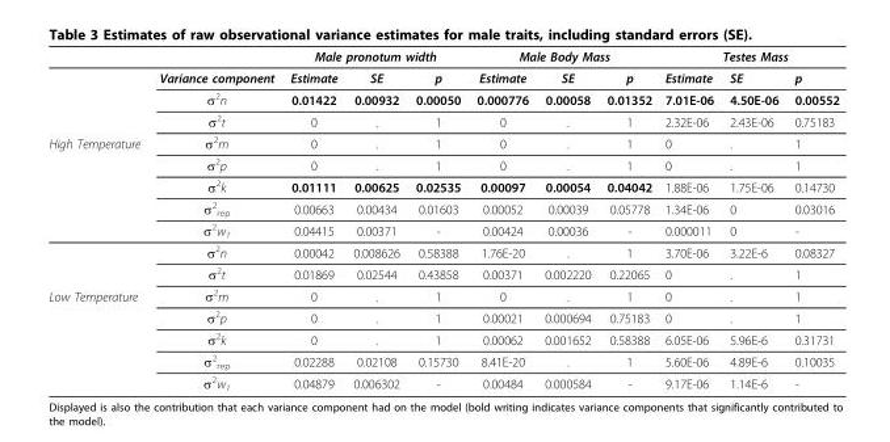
<table><thead><tr><td rowspan="2"></td><td rowspan="2">Variance component</td><td colspan="3">Male pronotum width</td><td colspan="3">Male Body Mass</td><td colspan="3">Testes Mass</td></tr><tr><td>Estimate</td><td>SE</td><td>p</td><td>Estimate</td><td>SE</td><td>p</td><td>Estimate</td><td>SE</td><td>p</td></tr></thead><tbody><tr><td></td><td>σ<sup>2</sup>n</td><td>0.01422</td><td>0.00932</td><td>0.00050</td><td>0.000776</td><td>0.00058</td><td>0.01352</td><td>7.01E-06</td><td>4.50E-06</td><td>0.00552</td></tr><tr><td></td><td>σ<sup>2</sup>t</td><td>0</td><td>.</td><td>1</td><td>0</td><td>.</td><td>1</td><td>2.32E-06</td><td>2.43E-06</td><td>0.75183</td></tr><tr><td rowspan="7">High Temperature</td><td>σ<sup>2</sup>m</td><td>0</td><td>.</td><td>1</td><td>0</td><td>.</td><td>1</td><td>0</td><td>.</td><td>1</td></tr><tr><td>σ<sup>2</sup>p</td><td>0</td><td>.</td><td>1</td><td>0</td><td>.</td><td>1</td><td>0</td><td>.</td><td>1</td></tr><tr><td>σ<sup>2</sup>k</td><td>0.01111</td><td>0.00625</td><td>0.02535</td><td>0.00097</td><td>0.00054</td><td>0.04042</td><td>1.88E-06</td><td>1.75E-06</td><td>0.14730</td></tr><tr><td>σ<sup>2</sup> <sub>rep</sub></td><td>0.00663</td><td>0.00434</td><td>0.01603</td><td>0.00052</td><td>0.00039</td><td>0.05778</td><td>1.34E-06</td><td>0</td><td>0.03016</td></tr><tr><td>σ<sup>2</sup>w<sub>1</sub></td><td>0.04415</td><td>0.00371</td><td>-</td><td>0.00424</td><td>0.00036</td><td>-</td><td>0.000011</td><td>0</td><td>-</td></tr><tr><td>σ<sup>2</sup>n</td><td>0.00042</td><td>0.008626</td><td>0.58388</td><td>1.76E-20</td><td>.</td><td>1</td><td>3.70E-06</td><td>3.22E-6</td><td>0.08327</td></tr><tr><td>σ<sup>2</sup>t</td><td>0.01869</td><td>0.02544</td><td>0.43858</td><td>0.00371</td><td>0.002220</td><td>0.22065</td><td>0</td><td>.</td><td>1</td></tr><tr><td rowspan="5">Low Temperature</td><td>σ<sup>2</sup>m</td><td>0</td><td>.</td><td>1</td><td>0</td><td>.</td><td>1</td><td>0</td><td>.</td><td>1</td></tr><tr><td>σ<sup>2</sup>p</td><td>0</td><td>.</td><td>1</td><td>0.00021</td><td>0.000694</td><td>0.75183</td><td>0</td><td>.</td><td>1</td></tr><tr><td>σ<sup>2</sup>k</td><td>0</td><td>.</td><td>1</td><td>0.00062</td><td>0.001652</td><td>0.58388</td><td>6.05E-06</td><td>5.96E-6</td><td>0.31731</td></tr><tr><td>σ<sup>2</sup> <sub>rep</sub></td><td>0.02288</td><td>0.02108</td><td>0.15730</td><td>8.41E-20</td><td>.</td><td>1</td><td>5.60E-06</td><td>4.89E-6</td><td>0.10035</td></tr><tr><td>σ<sup>2</sup>w<sub>1</sub></td><td>0.04879</td><td>0.006302</td><td>-</td><td>0.00484</td><td>0.000584</td><td>-</td><td>9.17E-06</td><td>1.14E-6</td><td>-</td></tr></tbody></table>